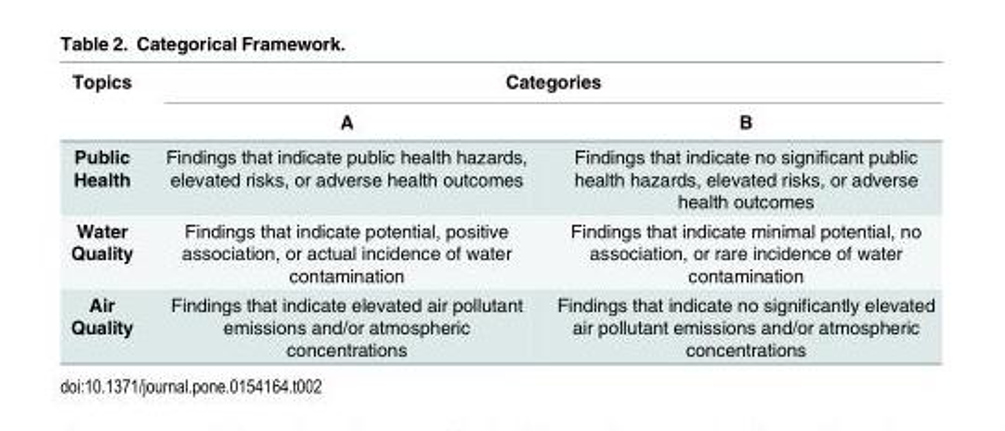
<table><thead><tr><td rowspan="2">Topics</td><td colspan="2">Categories</td></tr><tr><td>A</td><td>B</td></tr></thead><tbody><tr><td>Public Health</td><td>Findings that indicate public health hazards, elevated risks, or adverse health outcomes</td><td>Findings that indicate no significant public health hazards, elevated risks, or adverse health outcomes</td></tr><tr><td>Water Quality</td><td>Findings that indicate potential, positive association, or actual incidence of water contamination</td><td>Findings that indicate minimal potential, no association, or rare incidence of water contamination</td></tr><tr><td>Air Quality</td><td>Findings that indicate elevated air pollutant emissions and/or atmospheric concentrations</td><td>Findings that indicate no significantly elevated air pollutant emissions and/or atmospheric concentrations</td></tr></tbody></table>